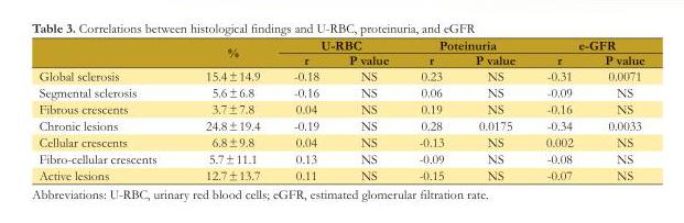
<table><thead><tr><td rowspan="2"></td><td rowspan="2">%</td><td colspan="2">U-RBC</td><td colspan="2">Poteinuria</td><td colspan="2">e-GFR</td></tr><tr><td>r</td><td>P value</td><td>r</td><td>P value</td><td>r</td><td>P value</td></tr></thead><tbody><tr><td>Global sclerosis</td><td>15.4 ± 14.9</td><td>-0.18</td><td>NS</td><td>0.23</td><td>NS</td><td>-0.31</td><td>0.0071</td></tr><tr><td>Segmental sclerosis</td><td>5.6 ± 6.8</td><td>-0.16</td><td>NS</td><td>0.06</td><td>NS</td><td>-0.09</td><td>NS</td></tr><tr><td>Fibrous crescents</td><td>3.7 ± 7.8</td><td>0.04</td><td>NS</td><td>0.19</td><td>NS</td><td>-0.16</td><td>NS</td></tr><tr><td>Chronic lesions</td><td>24.8 ± 19.4</td><td>-0.19</td><td>NS</td><td>0.28</td><td>0.0175</td><td>-0.34</td><td>0.0033</td></tr><tr><td>Cellular crescents</td><td>6.8 ± 9.8</td><td>0.04</td><td>NS</td><td>-0.13</td><td>NS</td><td>0.002</td><td>NS</td></tr><tr><td>Fibro-cellular crescents</td><td>5.7 ± 11.1</td><td>0.13</td><td>NS</td><td>-0.09</td><td>NS</td><td>-0.08</td><td>NS</td></tr><tr><td>Active lesions</td><td>12.7 ± 13.7</td><td>0.11</td><td>NS</td><td>-0.15</td><td>NS</td><td>-0.07</td><td>NS</td></tr></tbody></table>